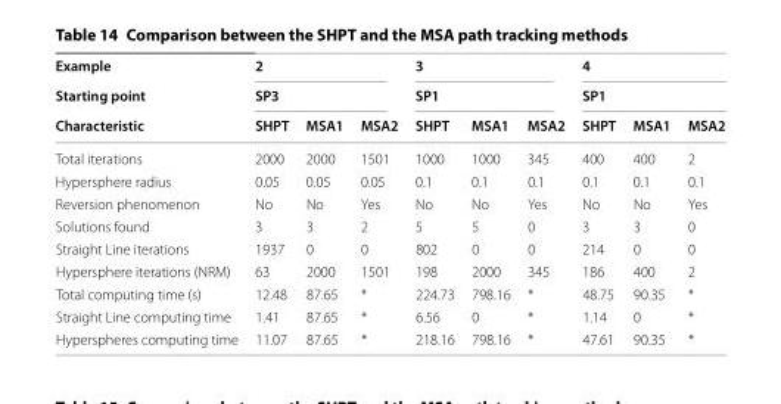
<table><thead><tr><td rowspan="3">Example Starting point Characteristic</td><td rowspan="2" colspan="3">2 SP3</td><td rowspan="2" colspan="3">3 SP1</td><td rowspan="2" colspan="3">4 SP1</td></tr><tr></tr><tr><td>SHPT</td><td>MSA1</td><td>MSA2</td><td>SHPT</td><td>MSA1</td><td>MSA2</td><td>SHPT</td><td>MSA1</td><td>MSA2</td></tr></thead><tbody><tr><td>Total iterations</td><td>2000</td><td>2000</td><td>1501</td><td>1000</td><td>1000</td><td>345</td><td>400</td><td>400</td><td>2</td></tr><tr><td>Hypersphere radius</td><td>0.05</td><td>0.05</td><td>0.05</td><td>0.1</td><td>0.1</td><td>0.1</td><td>0.1</td><td>0.1</td><td>0.1</td></tr><tr><td>Reversion phenomenon</td><td>No</td><td>No</td><td>Yes</td><td>No</td><td>No</td><td>Yes</td><td>No</td><td>No</td><td>Yes</td></tr><tr><td>Solutions found</td><td>3</td><td>3</td><td>2</td><td>5</td><td>5</td><td>0</td><td>3</td><td>3</td><td>0</td></tr><tr><td>Straight Line iterations</td><td>1937</td><td>0</td><td>0</td><td>802</td><td>0</td><td>0</td><td>214</td><td>0</td><td>0</td></tr><tr><td>Hypersphere iterations (NRM)</td><td>63</td><td>2000</td><td>1501</td><td>198</td><td>2000</td><td>345</td><td>186</td><td>400</td><td>2</td></tr><tr><td>Total computing time (s)</td><td>12.48</td><td>87.65</td><td>*</td><td>224.73</td><td>798.16</td><td>*</td><td>48.75</td><td>90.35</td><td>*</td></tr><tr><td>Straight Line computing time</td><td>1.41</td><td>87.65</td><td>*</td><td>6.56</td><td>0</td><td>*</td><td>1.14</td><td>0</td><td>*</td></tr><tr><td>Hyperspheres computing time</td><td>11.07</td><td>87.65</td><td>*</td><td>218.16</td><td>798.16</td><td>*</td><td>47.61</td><td>90.35</td><td>*</td></tr></tbody></table>